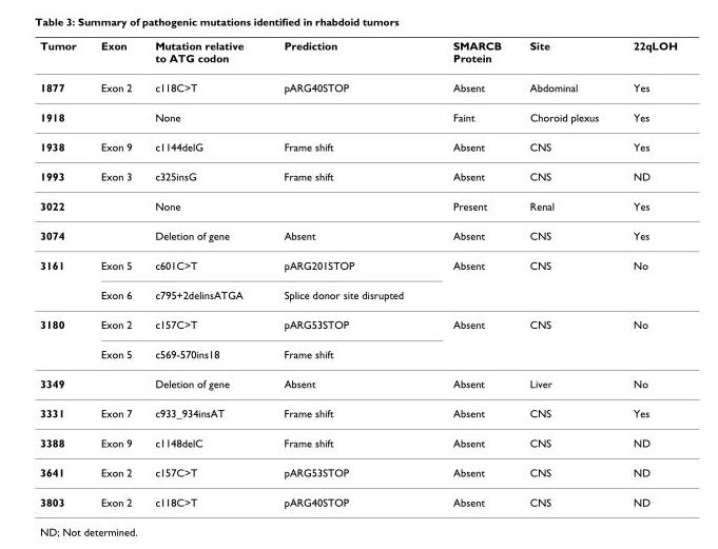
<table><thead><tr><td>Tumor</td><td>Exon</td><td>Mutation relative to ATG codon</td><td>Prediction</td><td>SMARCB Protein</td><td>Site</td><td>22qLOH</td></tr></thead><tbody><tr><td>1877</td><td>Exon 2</td><td>c118C&gt;T</td><td>pARG40STOP</td><td>Absent</td><td>Abdominal</td><td>Yes</td></tr><tr><td>1918</td><td></td><td>None</td><td></td><td>Faint</td><td>Choroid plexus</td><td>Yes</td></tr><tr><td>1938</td><td>Exon 9</td><td>c1144delG</td><td>Frame shift</td><td>Absent</td><td>CNS</td><td>Yes</td></tr><tr><td>1993</td><td>Exon 3</td><td>c325insG</td><td>Frame shift</td><td>Absent</td><td>CNS</td><td>ND</td></tr><tr><td>3022</td><td></td><td>None</td><td></td><td>Present</td><td>Renal</td><td>Yes</td></tr><tr><td>3074</td><td></td><td>Deletion of gene</td><td>Absent</td><td>Absent</td><td>CNS</td><td>Yes</td></tr><tr><td rowspan="2">3161</td><td>Exon 5</td><td>c601C&gt;T</td><td>pARG201STOP</td><td>Absent</td><td>CNS</td><td>No</td></tr><tr><td>Exon 6</td><td>c795+2delinsATGA</td><td>Splice donor site disrupted</td><td></td><td></td><td></td></tr><tr><td rowspan="2">3180</td><td>Exon 2</td><td>c157C&gt;T</td><td>pARG53STOP</td><td>Absent</td><td>CNS</td><td>No</td></tr><tr><td>Exon 5</td><td>c569-570ins18</td><td>Frame shift</td><td></td><td></td><td></td></tr><tr><td>3349</td><td></td><td>Deletion of gene</td><td>Absent</td><td>Absent</td><td>Liver</td><td>No</td></tr><tr><td>3331</td><td>Exon 7</td><td>c933_934insAT</td><td>Frame shift</td><td>Absent</td><td>CNS</td><td>Yes</td></tr><tr><td>3388</td><td>Exon 9</td><td>c1148delC</td><td>Frame shift</td><td>Absent</td><td>CNS</td><td>ND</td></tr><tr><td>3641</td><td>Exon 2</td><td>c157C&gt;T</td><td>pARG53STOP</td><td>Absent</td><td>CNS</td><td>ND</td></tr><tr><td>3803</td><td>Exon 2</td><td>c118C&gt;T</td><td>pARG40STOP</td><td>Absent</td><td>CNS</td><td>ND</td></tr></tbody></table>